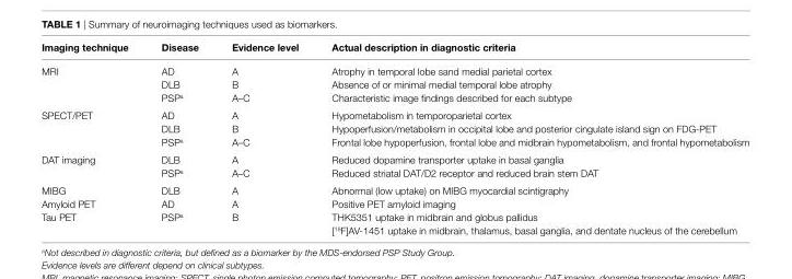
<table><thead><tr><td>imaging technique</td><td>Disease</td><td>evidence level</td><td>Actual description in diagnostic criteria</td></tr></thead><tbody><tr><td rowspan="3">MRI</td><td>AD</td><td>A</td><td>Atrophy in temporal lobe sand medial parietal cortex</td></tr><tr><td>DLB</td><td>B</td><td>Absence of or minimal medial temporal lobe atrophy</td></tr><tr><td>PSP<sup>a</sup></td><td>A–C</td><td>Characteristic image findings described for each subtype</td></tr><tr><td rowspan="3">SPECT/PET</td><td>AD</td><td>A</td><td>Hypometabolism in temporoparietal cortex</td></tr><tr><td>DLB</td><td>B</td><td>Hypoperfusion/metabolism in occipital lobe and posterior cingulate island sign on FDG-PET</td></tr><tr><td>PSP<sup>a</sup></td><td>A–C</td><td>Frontal lobe hypoperfusion, frontal lobe and midbrain hypometabolism, and frontal hypometabolism</td></tr><tr><td rowspan="2">DAT imaging</td><td>DLB</td><td>A</td><td>Reduced dopamine transporter uptake in basal ganglia</td></tr><tr><td>PSP<sup>a</sup></td><td>A–C</td><td>Reduced striatal DAT/D2 receptor and reduced brain stem DAT</td></tr><tr><td>MIBG</td><td>DLB</td><td>A</td><td>Abnormal (low uptake) on MIBG myocardial scintigraphy</td></tr><tr><td>Amyloid PET</td><td>AD</td><td>A</td><td>Positive PET amyloid imaging</td></tr><tr><td>Tau PET</td><td>PSP<sup>a</sup></td><td>B</td><td>THK5351 uptake in midbrain and globus pallidus [<sup>18</sup>F]AV-1451 uptake in midbrain, thalamus, basal ganglia, and dentate nucleus of the cerebellum</td></tr></tbody></table>